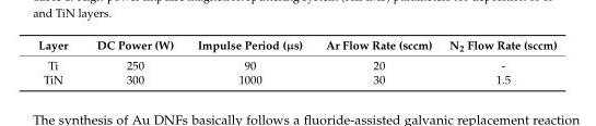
<table><thead><tr><td>Layer</td><td>DC Power (W)</td><td>Impulse Period (µs)</td><td>Ar Flow Rate (sccm)</td><td>N<sub>2</sub> Flow Rate (sccm)</td></tr></thead><tbody><tr><td>Ti</td><td>250</td><td>90</td><td>20</td><td>-</td></tr><tr><td>TiN</td><td>300</td><td>1000</td><td>30</td><td>1.5</td></tr></tbody></table>